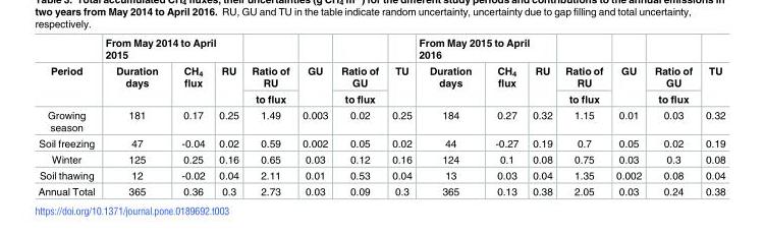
<table><thead><tr><td rowspan="3">Period</td><td colspan="3">From May 2014 to April 2015</td><td rowspan="3">Ratio of RU to flux</td><td rowspan="3">GU</td><td rowspan="3">Ratio of GU to flux</td><td rowspan="3">TU</td><td colspan="3">From May 2015 to April 2016</td><td rowspan="3">Ratio of RU to flux</td><td rowspan="3">GU</td><td rowspan="3">Ratio of GU to flux</td><td rowspan="3">TU</td></tr><tr><td rowspan="2">Duration days</td><td rowspan="2">CH<sub>4</sub> flux</td><td rowspan="2">RU</td><td rowspan="2">Duration days</td><td rowspan="2">CH<sub>4</sub> flux</td><td rowspan="2">RU</td></tr><tr></tr></thead><tbody><tr><td>Growing season</td><td>181</td><td>0.17</td><td>0.25</td><td>1.49</td><td>0.003</td><td>0.02</td><td>0.25</td><td>184</td><td>0.27</td><td>0.32</td><td>1.15</td><td>0.01</td><td>0.03</td><td>0.32</td></tr><tr><td>Soil freezing</td><td>47</td><td>-0.04</td><td>0.02</td><td>0.59</td><td>0.002</td><td>0.05</td><td>0.02</td><td>44</td><td>-0.27</td><td>0.19</td><td>0.7</td><td>0.05</td><td>0.02</td><td>0.19</td></tr><tr><td>Winter</td><td>125</td><td>0.25</td><td>0.16</td><td>0.65</td><td>0.03</td><td>0.12</td><td>0.16</td><td>124</td><td>0.1</td><td>0.08</td><td>0.75</td><td>0.03</td><td>0.3</td><td>0.08</td></tr><tr><td>Soil thawing</td><td>12</td><td>-0.02</td><td>0.04</td><td>2.11</td><td>0.01</td><td>0.53</td><td>0.04</td><td>13</td><td>0.03</td><td>0.04</td><td>1.35</td><td>0.002</td><td>0.08</td><td>0.04</td></tr><tr><td>Annual Total</td><td>365</td><td>0.36</td><td>0.3</td><td>2.73</td><td>0.03</td><td>0.09</td><td>0.3</td><td>365</td><td>0.13</td><td>0.38</td><td>2.05</td><td>0.03</td><td>0.24</td><td>0.38</td></tr></tbody></table>